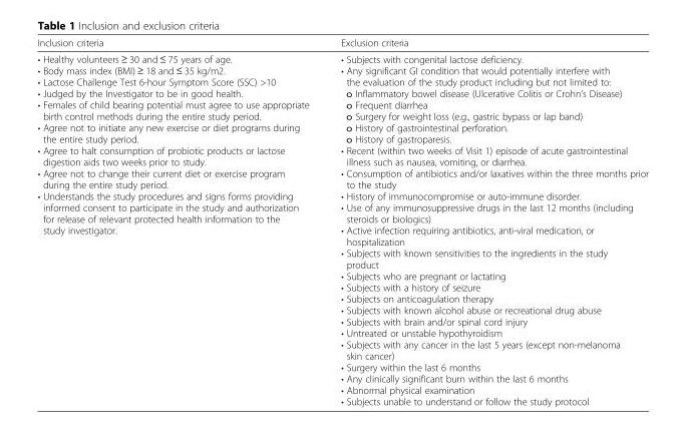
<table><thead><tr><td>Inclusion criteria</td><td>Exclusion criteria</td></tr></thead><tbody><tr><td>• Healthy volunteers ≥ 30 and ≤ 75 years of age. • Body mass index (BMI) ≥ 18 and ≤ 35 kg/m2. • Lactose Challenge Test 6-hour Symptom Score (SSC) &gt;10 • Judged by the Investigator to be in good health. • Females of child bearing potential must agree to use appropriate birth control methods during the entire study period. • Agree not to initiate any new exercise or diet programs during the entire study period. • Agree to halt consumption of probiotic products or lactose digestion aids two weeks prior to study. • Agree not to change their current diet or exercise program during the entire study period. • Understands the study procedures and signs forms providing informed consent to participate in the study and authorization for release of relevant protected health information to the study investigator.</td><td>• Subjects with congenital lactose deficiency. • Any significant GI condition that would potentially interfere with the evaluation of the study product including but not limited to: o Inflammatory bowel disease (Ulcerative Colitis or Crohn’s Disease) o Frequent diarrhea o Surgery for weight loss (e.g., gastric bypass or lap band) o History of gastrointestinal perforation. o History of gastroparesis. • Recent (within two weeks of Visit 1) episode of acute gastrointestinal illness such as nausea, vomiting, or diarrhea. • Consumption of antibiotics and/or laxatives within the three months prior to the study • History of immunocompromise or auto-immune disorder. • Use of any immunosuppressive drugs in the last 12 months (including steroids or biologics) • Active infection requiring antibiotics, anti-viral medication, or hospitalization • Subjects with known sensitivities to the ingredients in the study product • Subjects who are pregnant or lactating • Subjects with a history of seizure • Subjects on anticoagulation therapy • Subjects with known alcohol abuse or recreational drug abuse • Subjects with brain and/or spinal cord injury • Untreated or unstable hypothyroidism • Subjects with any cancer in the last 5 years (except non-melanoma skin cancer) • Surgery within the last 6 months • Any clinically significant burn within the last 6 months • Abnormal physical examination • Subjects unable to understand or follow the study protocol</td></tr></tbody></table>